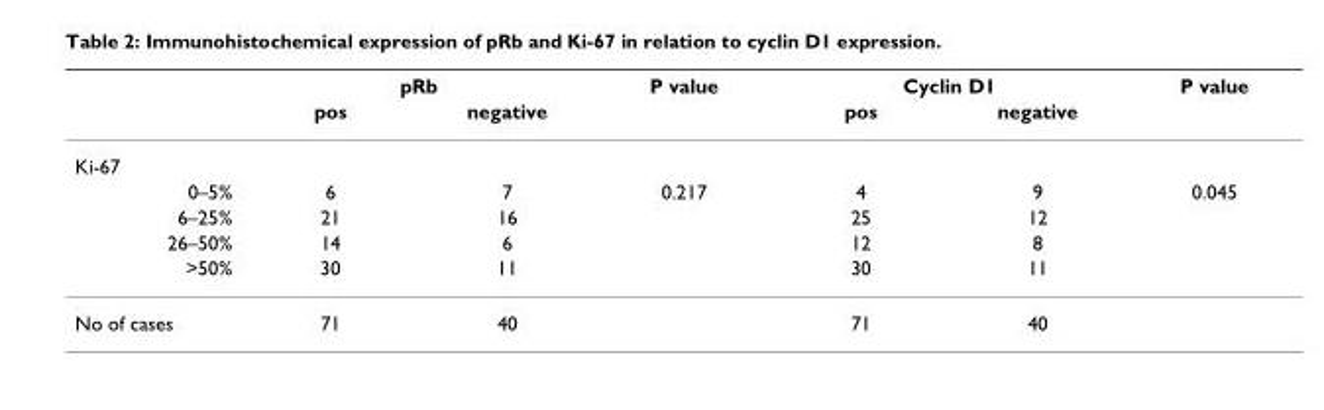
<table><thead><tr><td rowspan="2"></td><td colspan="2">pRb</td><td rowspan="2">P value</td><td colspan="2">Cyclin D1</td><td rowspan="2">P value</td></tr><tr><td>pos</td><td>negative</td><td>pos</td><td>negative</td></tr></thead><tbody><tr><td colspan="7">Ki-67</td></tr><tr><td>0–5%</td><td>6</td><td>7</td><td>0.217</td><td>4</td><td>9</td><td>0.045</td></tr><tr><td>6–25%</td><td>21</td><td>16</td><td></td><td>25</td><td>12</td><td></td></tr><tr><td>26–50%</td><td>14</td><td>6</td><td></td><td>12</td><td>8</td><td></td></tr><tr><td>&gt;50%</td><td>30</td><td>11</td><td></td><td>30</td><td>11</td><td></td></tr><tr><td>No of cases</td><td>71</td><td>40</td><td></td><td>71</td><td>40</td><td></td></tr></tbody></table>